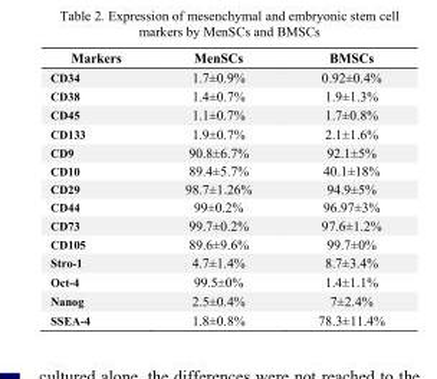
<table><thead><tr><td>Markers</td><td>MenSCs</td><td>BMSCs</td></tr></thead><tbody><tr><td>CD34</td><td>1.7±0.9%</td><td>0.92±0.4%</td></tr><tr><td>CD38</td><td>1.4±0.7%</td><td>1.9±1.3%</td></tr><tr><td>CD45</td><td>1.1±0.7%</td><td>1.7±0.8%</td></tr><tr><td>CD133</td><td>1.9±0.7%</td><td>2.1±1.6%</td></tr><tr><td>CD9</td><td>90.8±6.7%</td><td>92.1±5%</td></tr><tr><td>CD10</td><td>89.4±5.7%</td><td>40.1±18%</td></tr><tr><td>CD29</td><td>98.7±1.26%</td><td>94.9±5%</td></tr><tr><td>CD44</td><td>99±0.2%</td><td>96.97±3%</td></tr><tr><td>CD73</td><td>99.7±0.2%</td><td>97.6±1.2%</td></tr><tr><td>CD105</td><td>89.6±9.6%</td><td>99.7±0%</td></tr><tr><td>Stro-1</td><td>4.7±1.4%</td><td>8.7±3.4%</td></tr><tr><td>Oct-4</td><td>99.5±0%</td><td>1.4±1.1%</td></tr><tr><td>Nanog</td><td>2.5±0.4%</td><td>7±2.4%</td></tr><tr><td>SSEA-4</td><td>1.8±0.8%</td><td>78.3±11.4%</td></tr></tbody></table>